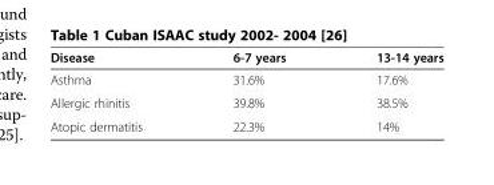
<table><thead><tr><td>Disease</td><td>6-7 years</td><td>13-14 years</td></tr></thead><tbody><tr><td>Asthma</td><td>31.6%</td><td>17.6%</td></tr><tr><td>Allergic rhinitis</td><td>39.8%</td><td>38.5%</td></tr><tr><td>Atopic dermatitis</td><td>22.3%</td><td>14%</td></tr></tbody></table>